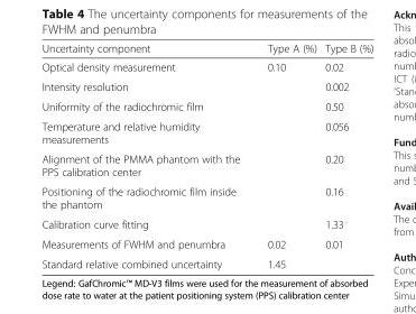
<table><thead><tr><td>Uncertainty component</td><td>Type A (%)</td><td>Type B (%)</td></tr></thead><tbody><tr><td>Optical density measurement</td><td>0.10</td><td>0.02</td></tr><tr><td>Intensity resolution</td><td></td><td>0.002</td></tr><tr><td>Uniformity of the radiochromic film</td><td></td><td>0.50</td></tr><tr><td>Temperature and relative humidity measurements</td><td></td><td>0.056</td></tr><tr><td>Alignment of the PMMA phantom with the PPS calibration center</td><td></td><td>0.20</td></tr><tr><td>Positioning of the radiochromic film inside the phantom</td><td></td><td>0.16</td></tr><tr><td>Calibration curve fitting</td><td></td><td>1.33</td></tr><tr><td>Measurements of FWHM and penumbra</td><td>0.02</td><td>0.01</td></tr><tr><td>Standard relative combined uncertainty</td><td colspan="2">1.45</td></tr></tbody></table>